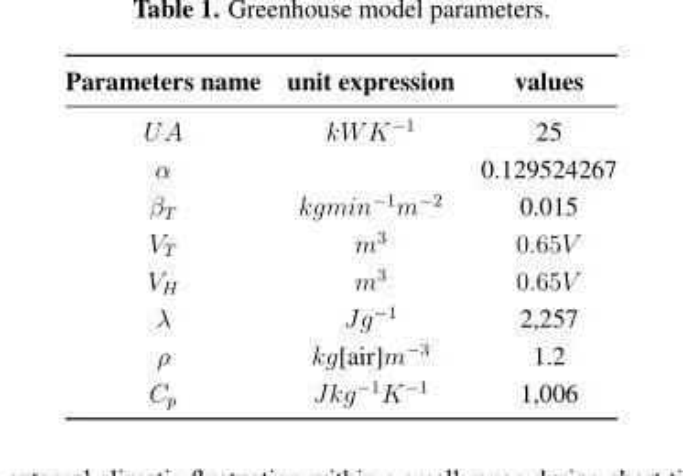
<table><thead><tr><td>Parameters name</td><td>unit expression</td><td>values</td></tr></thead><tbody><tr><td>UA</td><td>kWK<sup>−1</sup></td><td>25</td></tr><tr><td>α</td><td></td><td>0.129524267</td></tr><tr><td>β<sub>T</sub></td><td>kgmin<sup>−1</sup>m<sup>−2</sup></td><td>0.015</td></tr><tr><td>V<sub>T</sub></td><td>m<sup>3</sup></td><td>0.65V</td></tr><tr><td>V<sub>H</sub></td><td>m<sup>3</sup></td><td>0.65V</td></tr><tr><td>λ</td><td>Jg<sup>−1</sup></td><td>2,257</td></tr><tr><td>ρ</td><td>kg[air]m<sup>−3</sup></td><td>1.2</td></tr><tr><td>C<sub>p</sub></td><td>Jkg<sup>−1</sup>K<sup>−1</sup></td><td>1,006</td></tr></tbody></table>